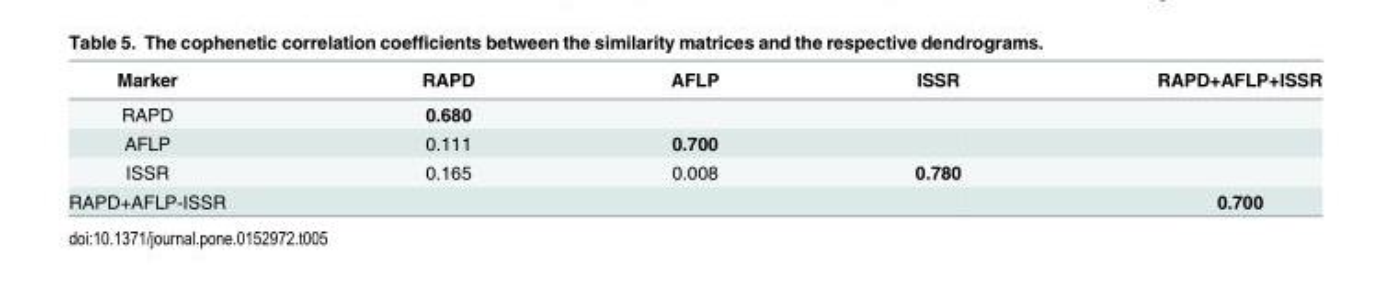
<table><thead><tr><td>Marker</td><td>RAPD</td><td>AFLP</td><td>ISSR</td><td>RAPD+AFLP+ISSR</td></tr></thead><tbody><tr><td>RAPD</td><td>0.680</td><td></td><td></td><td></td></tr><tr><td>AFLP</td><td>0.111</td><td>0.700</td><td></td><td></td></tr><tr><td>ISSR</td><td>0.165</td><td>0.008</td><td>0.780</td><td></td></tr><tr><td>RAPD+AFLP-ISSR</td><td></td><td></td><td></td><td>0.700</td></tr></tbody></table>